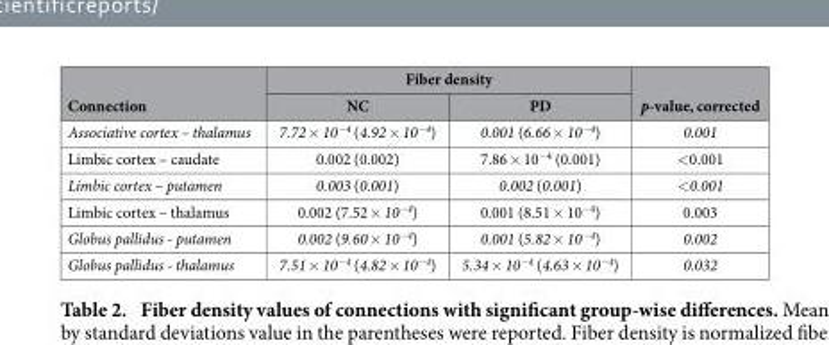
<table><thead><tr><td rowspan="2">Connection</td><td colspan="2">Fiber density</td><td rowspan="2">p-value, corrected</td></tr><tr><td>NC</td><td>PD</td></tr></thead><tbody><tr><td>Associative cortex – thalamus</td><td>7.72 × 10<sup>−4</sup> (4.92 × 10<sup>−4</sup>)</td><td>0.001 (6.66 × 10<sup>−4</sup>)</td><td>0.001</td></tr><tr><td>Limbic cortex – caudate</td><td>0.002 (0.002)</td><td>7.86 × 10<sup>−4</sup> (0.001)</td><td>&lt; 0.001</td></tr><tr><td>Limbic cortex – putamen</td><td>0.003 (0.001)</td><td>0.002 (0.001)</td><td>&lt; 0.001</td></tr><tr><td>Limbic cortex – thalamus</td><td>0.002 (7.52 × 10−4)</td><td>0.001 (8.51 × 10<sup>−4</sup>)</td><td>0.003</td></tr><tr><td>Globus pallidus - putamen</td><td>0.002 (9.60 × 10<sup>−4</sup>)</td><td>0.001 (5.82 × 10<sup>−4</sup>)</td><td>0.002</td></tr><tr><td>Globus pallidus - thalamus</td><td>7.51 × 10<sup>−4</sup> (4.82 × 10<sup>−4</sup>)</td><td>5.34 × 10<sup>−4</sup> (4.63 × 10<sup>−4</sup>)</td><td>0.032</td></tr></tbody></table>